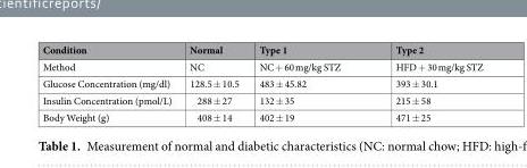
<table><thead><tr><td>Condition</td><td>Normal</td><td>Type 1</td><td>Type 2</td></tr></thead><tbody><tr><td>Method</td><td>NC</td><td>NC + 60 mg/kg STZ</td><td>HFD + 30 mg/kg STZ</td></tr><tr><td>Glucose Concentration (mg/dl)</td><td>128.5 ± 10.5</td><td>483 ± 45.82</td><td>393 ± 30.1</td></tr><tr><td>Insulin Concentration (pmol/L)</td><td>288 ± 27</td><td>132 ± 35</td><td>215 ± 58</td></tr><tr><td>Body Weight (g)</td><td>408 ± 14</td><td>402 ± 19</td><td>471 ± 25</td></tr></tbody></table>